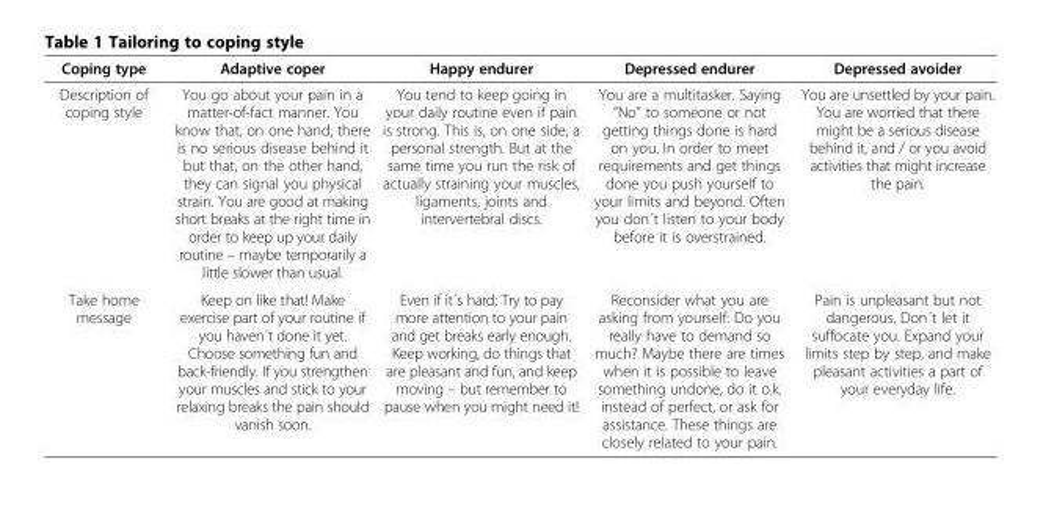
<table><thead><tr><td>Coping type</td><td>Adaptive coper</td><td>Happy endurer</td><td>Depressed endurer</td><td>Depressed avoider</td></tr></thead><tbody><tr><td>Description of coping style</td><td>You go about your pain in a matter-of-fact manner. You know that, on one hand, there is no serious disease behind it but that, on the other hand, they can signal you physical strain. You are good at making short breaks at the right time in order to keep up your daily routine – maybe temporarily a little slower than usual.</td><td>You tend to keep going in your daily routine even if pain is strong. This is, on one side, a personal strength. But at the same time you run the risk of actually straining your muscles, ligaments, joints and intervertebral discs.</td><td>You are a multitasker. Saying “No” to someone or not getting things done is hard on you. In order to meet requirements and get things done you push yourself to your limits and beyond. Often you don´t listen to your body before it is overstrained.</td><td>You are unsettled by your pain. You are worried that there might be a serious disease behind it, and / or you avoid activities that might increase the pain.</td></tr><tr><td>Take home message</td><td>Keep on like that! Make exercise part of your routine if you haven´t done it yet. Choose something fun and back-friendly. If you strengthen your muscles and stick to your relaxing breaks the pain should vanish soon.</td><td>Even if it´s hard: Try to pay more attention to your pain and get breaks early enough. Keep working, do things that are pleasant and fun, and keep moving – but remember to pause when you might need it!</td><td>Reconsider what you are asking from yourself: Do you really have to demand so much? Maybe there are times when it is possible to leave something undone, do it o.k. instead of perfect, or ask for assistance. These things are closely related to your pain.</td><td>Pain is unpleasant but not dangerous. Don´t let it suffocate you. Expand your limits step by step, and make pleasant activities a part of your everyday life.</td></tr></tbody></table>